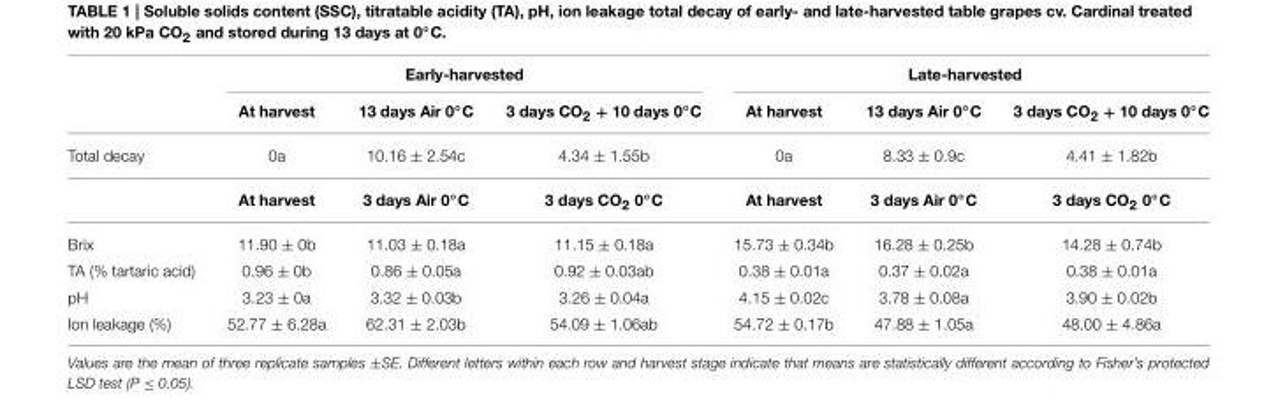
<table><thead><tr><td rowspan="2"></td><td colspan="3">Early-harvested</td><td colspan="3">Late-harvested</td></tr><tr><td>At harvest</td><td>13 days Air 0◦C</td><td>3 days CO2 + 10 days 0◦C</td><td>At harvest</td><td>13 days Air 0◦C</td><td>3 days CO2 + 10 days 0◦C</td></tr></thead><tbody><tr><td rowspan="2">Total decay</td><td>0a</td><td>10.16 ± 2.54c</td><td>4.34 ± 1.55b</td><td>0a</td><td>8.33 ± 0.9c</td><td>4.41 ± 1.82b</td></tr><tr><td>At harvest</td><td>3 days Air 0◦C</td><td>3 days CO2 0◦C</td><td>At harvest</td><td>3 days Air 0◦C</td><td>3 days CO2 0◦C</td></tr><tr><td>Brix</td><td>11.90 ± 0b</td><td>11.03 ± 0.18a</td><td>11.15 ± 0.18a</td><td>15.73 ± 0.34b</td><td>16.28 ± 0.25b</td><td>14.28 ± 0.74b</td></tr><tr><td>TA (% tartaric acid)</td><td>0.96 ± 0b</td><td>0.86 ± 0.05a</td><td>0.92 ± 0.03ab</td><td>0.38 ± 0.01a</td><td>0.37 ± 0.02a</td><td>0.38 ± 0.01a</td></tr><tr><td>pH</td><td>3.23 ± 0a</td><td>3.32 ± 0.03b</td><td>3.26 ± 0.04a</td><td>4.15 ± 0.02c</td><td>3.78 ± 0.08a</td><td>3.90 ± 0.02b</td></tr><tr><td>Ion leakage (%)</td><td>52.77 ± 6.28a</td><td>62.31 ± 2.03b</td><td>54.09 ± 1.06ab</td><td>54.72 ± 0.17b</td><td>47.88 ± 1.05a</td><td>48.00 ± 4.86a</td></tr></tbody></table>